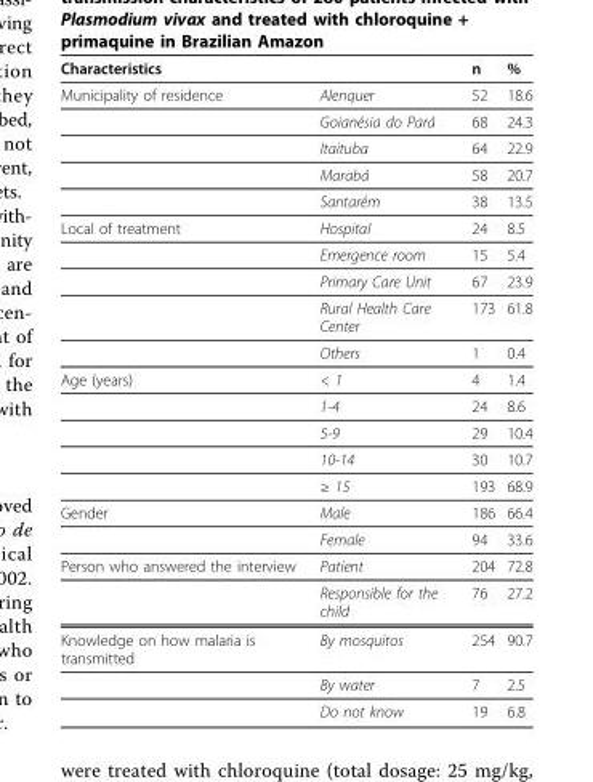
<table><thead><tr><td>Characteristics</td><td></td><td>n</td><td>%</td></tr></thead><tbody><tr><td rowspan="5">Municipality of residence</td><td>Alenquer</td><td>52</td><td>18.6</td></tr><tr><td>Goianésia do Pará</td><td>68</td><td>24.3</td></tr><tr><td>Itaituba</td><td>64</td><td>22.9</td></tr><tr><td>Marabá</td><td>58</td><td>20.7</td></tr><tr><td>Santarém</td><td>38</td><td>13.5</td></tr><tr><td rowspan="5">Local of treatment</td><td>Hospital</td><td>24</td><td>8.5</td></tr><tr><td>Emergence room</td><td>15</td><td>5.4</td></tr><tr><td>Primary Care Unit</td><td>67</td><td>23.9</td></tr><tr><td>Rural Health Care Center</td><td>173</td><td>61.8</td></tr><tr><td>Others</td><td>1</td><td>0.4</td></tr><tr><td rowspan="5">Age (years)</td><td>&lt; 1</td><td>4</td><td>1.4</td></tr><tr><td>1-4</td><td>24</td><td>8.6</td></tr><tr><td>5-9</td><td>29</td><td>10.4</td></tr><tr><td>10-14</td><td>30</td><td>10.7</td></tr><tr><td>≥ 15</td><td>193</td><td>68.9</td></tr><tr><td rowspan="2">Gender</td><td>Male</td><td>186</td><td>66.4</td></tr><tr><td>Female</td><td>94</td><td>33.6</td></tr><tr><td rowspan="2">Person who answered the interview</td><td>Patient</td><td>204</td><td>72.8</td></tr><tr><td>Responsible for the child</td><td>76</td><td>27.2</td></tr><tr><td rowspan="3">Knowledge on how malaria is transmitted</td><td>By mosquitos</td><td>254</td><td>90.7</td></tr><tr><td>By water</td><td>7</td><td>2.5</td></tr><tr><td>Do not know</td><td>19</td><td>6.8</td></tr></tbody></table>